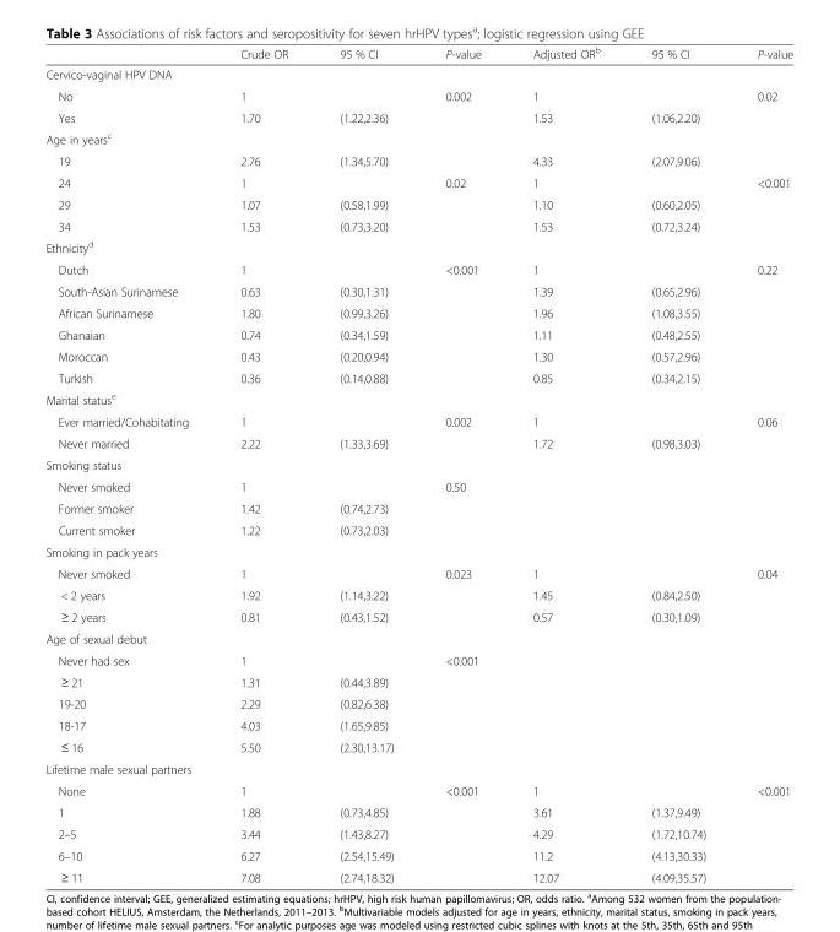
<table><thead><tr><td></td><td>Crude OR</td><td>95 % CI</td><td>P-value</td><td>Adjusted OR<sup>b</sup></td><td>95 % CI</td><td>P-value</td></tr></thead><tbody><tr><td colspan="7">Cervico-vaginal HPV DNA</td></tr><tr><td>No</td><td>1</td><td></td><td>0.002</td><td>1</td><td></td><td>0.02</td></tr><tr><td>Yes</td><td>1.70</td><td>(1.22,2.36)</td><td></td><td>1.53</td><td>(1.06,2.20)</td><td></td></tr><tr><td colspan="7">Age in years<sup>c</sup></td></tr><tr><td>19</td><td>2.76</td><td>(1.34,5.70)</td><td></td><td>4.33</td><td>(2.07,9.06)</td><td></td></tr><tr><td>24</td><td>1</td><td></td><td>0.02</td><td>1</td><td></td><td>&lt;0.001</td></tr><tr><td>29</td><td>1.07</td><td>(0.58,1.99)</td><td></td><td>1.10</td><td>(0.60,2.05)</td><td></td></tr><tr><td>34</td><td>1.53</td><td>(0.73,3.20)</td><td></td><td>1.53</td><td>(0.72,3.24)</td><td></td></tr><tr><td colspan="7">Ethnicity<sup>d</sup></td></tr><tr><td>Dutch</td><td>1</td><td></td><td>&lt;0.001</td><td>1</td><td></td><td>0.22</td></tr><tr><td>South-Asian Surinamese</td><td>0.63</td><td>(0.30,1.31)</td><td></td><td>1.39</td><td>(0.65,2.96)</td><td></td></tr><tr><td>African Surinamese</td><td>1.80</td><td>(0.99,3.26)</td><td></td><td>1.96</td><td>(1.08,3.55)</td><td></td></tr><tr><td>Ghanaian</td><td>0.74</td><td>(0.34,1.59)</td><td></td><td>1.11</td><td>(0.48,2.55)</td><td></td></tr><tr><td>Moroccan</td><td>0.43</td><td>(0.20,0.94)</td><td></td><td>1.30</td><td>(0.57,2.96)</td><td></td></tr><tr><td>Turkish</td><td>0.36</td><td>(0.14,0.88)</td><td></td><td>0.85</td><td>(0.34,2.15)</td><td></td></tr><tr><td colspan="7">Marital status<sup>e</sup></td></tr><tr><td>Ever married/Cohabitating</td><td>1</td><td></td><td>0.002</td><td>1</td><td></td><td>0.06</td></tr><tr><td>Never married</td><td>2.22</td><td>(1.33,3.69)</td><td></td><td>1.72</td><td>(0.98,3.03)</td><td></td></tr><tr><td colspan="7">Smoking status</td></tr><tr><td>Never smoked</td><td>1</td><td></td><td>0.50</td><td></td><td></td><td></td></tr><tr><td>Former smoker</td><td>1.42</td><td>(0.74,2.73)</td><td></td><td></td><td></td><td></td></tr><tr><td>Current smoker</td><td>1.22</td><td>(0.73,2.03)</td><td></td><td></td><td></td><td></td></tr><tr><td colspan="7">Smoking in pack years</td></tr><tr><td>Never smoked</td><td>1</td><td></td><td>0.023</td><td>1</td><td></td><td>0.04</td></tr><tr><td>&lt; 2 years</td><td>1.92</td><td>(1.14,3.22)</td><td></td><td>1.45</td><td>(0.84,2.50)</td><td></td></tr><tr><td>≥ 2 years</td><td>0.81</td><td>(0.43,1.52)</td><td></td><td>0.57</td><td>(0.30,1.09)</td><td></td></tr><tr><td colspan="7">Age of sexual debut</td></tr><tr><td>Never had sex</td><td>1</td><td></td><td>&lt;0.001</td><td></td><td></td><td></td></tr><tr><td>≥ 21</td><td>1.31</td><td>(0.44,3.89)</td><td></td><td></td><td></td><td></td></tr><tr><td>19-20</td><td>2.29</td><td>(0.82,6.38)</td><td></td><td></td><td></td><td></td></tr><tr><td>18-17</td><td>4.03</td><td>(1.65,9.85)</td><td></td><td></td><td></td><td></td></tr><tr><td>≤ 16</td><td>5.50</td><td>(2.30,13.17)</td><td></td><td></td><td></td><td></td></tr><tr><td colspan="7">Lifetime male sexual partners</td></tr><tr><td>None</td><td>1</td><td></td><td>&lt;0.001</td><td>1</td><td></td><td>&lt;0.001</td></tr><tr><td>1</td><td>1.88</td><td>(0.73,4.85)</td><td></td><td>3.61</td><td>(1.37,9.49)</td><td></td></tr><tr><td>2–5</td><td>3.44</td><td>(1.43,8.27)</td><td></td><td>4.29</td><td>(1.72,10.74)</td><td></td></tr><tr><td>6–10</td><td>6.27</td><td>(2.54,15.49)</td><td></td><td>11.2</td><td>(4.13,30.33)</td><td></td></tr><tr><td>≥ 11</td><td>7.08</td><td>(2.74,18.32)</td><td></td><td>12.07</td><td>(4.09,35.57)</td><td></td></tr></tbody></table>